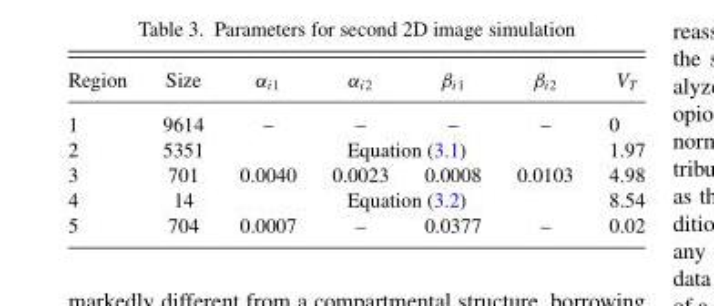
<table><thead><tr><td>Region</td><td>Size</td><td>α<sub>i1</sub></td><td>α<sub>i2</sub></td><td>β<sub>i1</sub></td><td>β<sub>i2</sub></td><td>V<sub>T</sub></td></tr></thead><tbody><tr><td>1</td><td>9614</td><td>–</td><td>–</td><td>–</td><td>–</td><td>0</td></tr><tr><td>2</td><td>5351</td><td colspan="4">Equation (3.1)</td><td>1.97</td></tr><tr><td>3</td><td>701</td><td>0.0040</td><td>0.0023</td><td>0.0008</td><td>0.0103</td><td>4.98</td></tr><tr><td>4</td><td>14</td><td colspan="4">Equation (3.2)</td><td>8.54</td></tr><tr><td>5</td><td>704</td><td>0.0007</td><td>–</td><td>0.0377</td><td>–</td><td>0.02</td></tr></tbody></table>